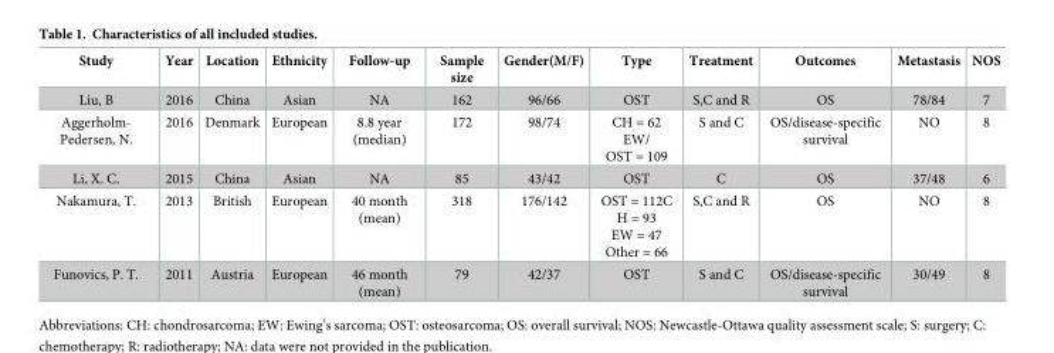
<table><thead><tr><td>Study</td><td>Year</td><td>Location</td><td>Ethnicity</td><td>Follow-up</td><td>Sample size</td><td>Gender(M/F)</td><td>Type</td><td>Treatment</td><td>Outcomes</td><td>Metastasis</td><td>NOS</td></tr></thead><tbody><tr><td>Liu, B</td><td>2016</td><td>China</td><td>Asian</td><td>NA</td><td>162</td><td>96/66</td><td>OST</td><td>S,C and R</td><td>OS</td><td>78/84</td><td>7</td></tr><tr><td>Aggerholm- Pedersen, N.</td><td>2016</td><td>Denmark</td><td>European</td><td>8.8 year (median)</td><td>172</td><td>98/74</td><td>CH = 62 EW/ OST = 109</td><td>S and C</td><td>OS/disease-specific survival</td><td>NO</td><td>8</td></tr><tr><td>Li, X. C.</td><td>2015</td><td>China</td><td>Asian</td><td>NA</td><td>85</td><td>43/42</td><td>OST</td><td>C</td><td>OS</td><td>37/48</td><td>6</td></tr><tr><td>Nakamura, T.</td><td>2013</td><td>British</td><td>European</td><td>40 month (mean)</td><td>318</td><td>176/142</td><td>OST = 112C H = 93 EW = 47 Other = 66</td><td>S,C and R</td><td>OS</td><td>NO</td><td>8</td></tr><tr><td>Funovics, P. T.</td><td>2011</td><td>Austria</td><td>European</td><td>46 month (mean)</td><td>79</td><td>42/37</td><td>OST</td><td>S and C</td><td>OS/disease-specific survival</td><td>30/49</td><td>8</td></tr></tbody></table>